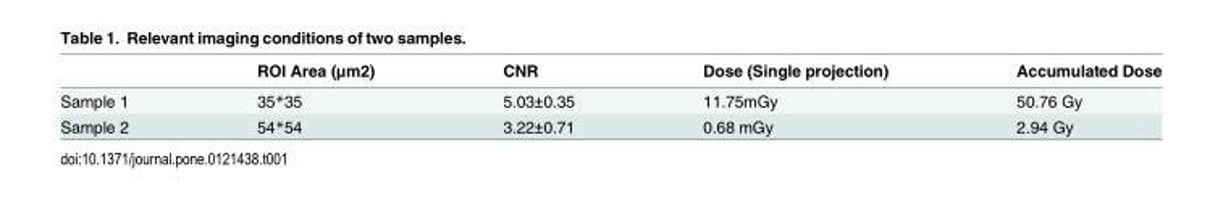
<table><thead><tr><td></td><td>ROI Area (μm2)</td><td>CNR</td><td>Dose (Single projection)</td><td>Accumulated Dose</td></tr></thead><tbody><tr><td>Sample 1</td><td>35*35</td><td>5.03±0.35</td><td>11.75mGy</td><td>50.76 Gy</td></tr><tr><td>Sample 2</td><td>54*54</td><td>3.22±0.71</td><td>0.68 mGy</td><td>2.94 Gy</td></tr></tbody></table>